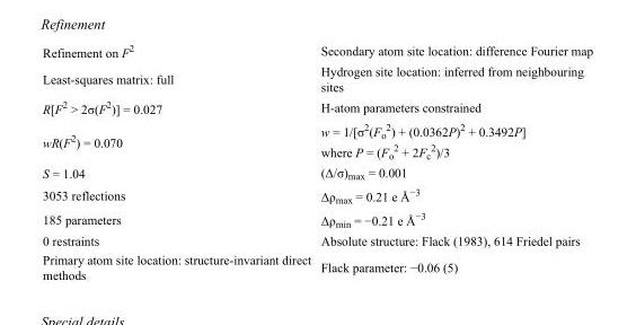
<table><tbody><tr><td>Refinement on F<sup>2</sup></td><td>Secondary atom site location: difference Fourier map</td></tr><tr><td>Least-squares matrix: full</td><td>Hydrogen site location: inferred from neighbouring sites</td></tr><tr><td>R[F<sup>2</sup> &gt; 2σ(F<sup>2</sup>)] = 0.027</td><td>H-atom parameters constrained</td></tr><tr><td>wR(F<sup>2</sup>) = 0.070</td><td>w = 1/[σ<sup>2</sup>(F<sub>o</sub> <sup>2</sup>) + (0.0362P)<sup>2</sup> + 0.3492P] where P = (F<sub>o</sub> <sup>2</sup> + 2F<sub>c</sub> <sup>2</sup>)/3</td></tr><tr><td>S = 1.04</td><td>(Δ/σ)<sub>max</sub> = 0.001</td></tr><tr><td>3053 reflections</td><td>Δρ<sub>max</sub> = 0.21 e Å<sup>−3</sup></td></tr><tr><td>185 parameters</td><td>Δρ<sub>min</sub> = −0.21 e Å<sup>−3</sup></td></tr><tr><td>0 restraints</td><td>Absolute structure: Flack (1983), 614 Friedel pairs</td></tr><tr><td>Primary atom site location: structure-invariant direct methods</td><td>Flack parameter: −0.06 (5)</td></tr></tbody></table>